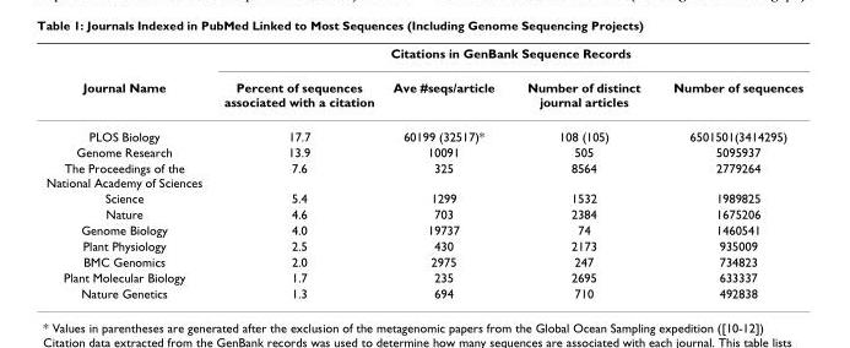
<table><thead><tr><td rowspan="2">Journal Name</td><td colspan="4">Citations in GenBank Sequence Records</td></tr><tr><td>Percent of sequences associated with a citation</td><td>Ave #seqs/article</td><td>Number of distinct journal articles</td><td>Number of sequences</td></tr></thead><tbody><tr><td>PLOS Biology</td><td>17.7</td><td>60199 (32517)*</td><td>108 (105)</td><td>6501501(3414295)</td></tr><tr><td>Genome Research</td><td>13.9</td><td>10091</td><td>505</td><td>5095937</td></tr><tr><td>The Proceedings of the National Academy of Sciences</td><td>7.6</td><td>325</td><td>8564</td><td>2779264</td></tr><tr><td>Science</td><td>5.4</td><td>1299</td><td>1532</td><td>1989825</td></tr><tr><td>Nature</td><td>4.6</td><td>703</td><td>2384</td><td>1675206</td></tr><tr><td>Genome Biology</td><td>4.0</td><td>19737</td><td>74</td><td>1460541</td></tr><tr><td>Plant Physiology</td><td>2.5</td><td>430</td><td>2173</td><td>935009</td></tr><tr><td>BMC Genomics</td><td>2.0</td><td>2975</td><td>247</td><td>734823</td></tr><tr><td>Plant Molecular Biology</td><td>1.7</td><td>235</td><td>2695</td><td>633337</td></tr><tr><td>Nature Genetics</td><td>1.3</td><td>694</td><td>710</td><td>492838</td></tr></tbody></table>